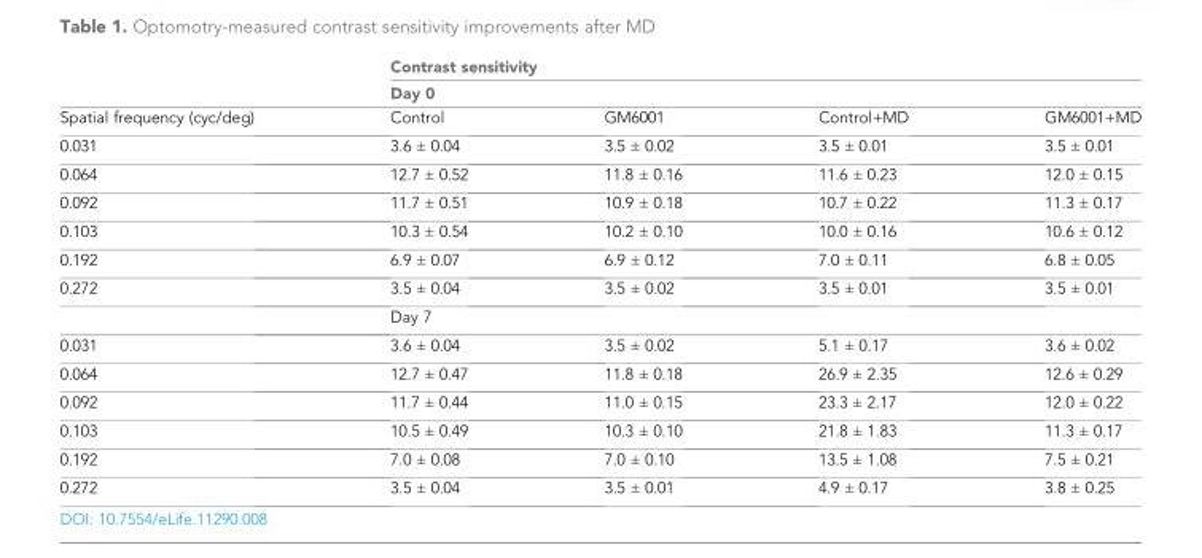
<table><thead><tr><td rowspan="3">Spatial frequency (cyc/deg)</td><td rowspan="2" colspan="4">Contrast sensitivity Day 0</td></tr><tr></tr><tr><td>Control</td><td>GM6001</td><td>Control+MD</td><td>GM6001+MD</td></tr></thead><tbody><tr><td>0.031</td><td>3.6 ± 0.04</td><td>3.5 ± 0.02</td><td>3.5 ± 0.01</td><td>3.5 ± 0.01</td></tr><tr><td>0.064</td><td>12.7 ± 0.52</td><td>11.8 ± 0.16</td><td>11.6 ± 0.23</td><td>12.0 ± 0.15</td></tr><tr><td>0.092</td><td>11.7 ± 0.51</td><td>10.9 ± 0.18</td><td>10.7 ± 0.22</td><td>11.3 ± 0.17</td></tr><tr><td>0.103</td><td>10.3 ± 0.54</td><td>10.2 ± 0.10</td><td>10.0 ± 0.16</td><td>10.6 ± 0.12</td></tr><tr><td>0.192</td><td>6.9 ± 0.07</td><td>6.9 ± 0.12</td><td>7.0 ± 0.11</td><td>6.8 ± 0.05</td></tr><tr><td rowspan="2">0.272</td><td>3.5 ± 0.04</td><td>3.5 ± 0.02</td><td>3.5 ± 0.01</td><td>3.5 ± 0.01</td></tr><tr><td colspan="4">Day 7</td></tr><tr><td>0.031</td><td>3.6 ± 0.04</td><td>3.5 ± 0.02</td><td>5.1 ± 0.17</td><td>3.6 ± 0.02</td></tr><tr><td>0.064</td><td>12.7 ± 0.47</td><td>11.8 ± 0.18</td><td>26.9 ± 2.35</td><td>12.6 ± 0.29</td></tr><tr><td>0.092</td><td>11.7 ± 0.44</td><td>11.0 ± 0.15</td><td>23.3 ± 2.17</td><td>12.0 ± 0.22</td></tr><tr><td>0.103</td><td>10.5 ± 0.49</td><td>10.3 ± 0.10</td><td>21.8 ± 1.83</td><td>11.3 ± 0.17</td></tr><tr><td>0.192</td><td>7.0 ± 0.08</td><td>7.0 ± 0.10</td><td>13.5 ± 1.08</td><td>7.5 ± 0.21</td></tr><tr><td>0.272</td><td>3.5 ± 0.04</td><td>3.5 ± 0.01</td><td>4.9 ± 0.17</td><td>3.8 ± 0.25</td></tr></tbody></table>